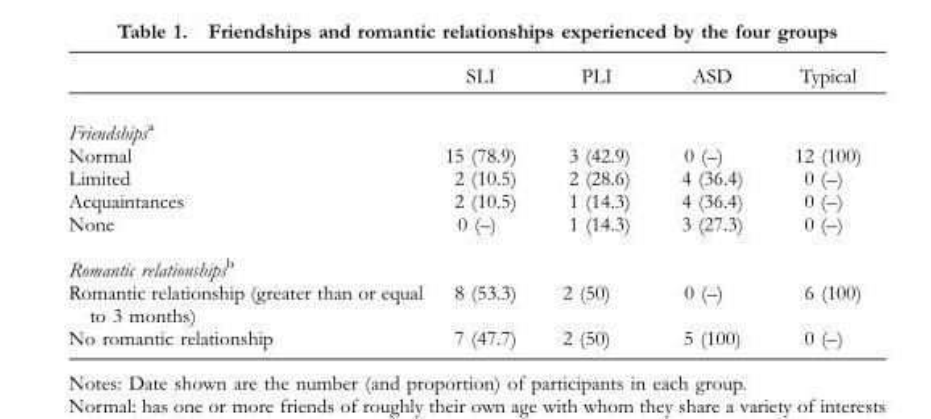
<table><thead><tr><td></td><td>SLI</td><td>PLI</td><td>ASD</td><td>Typical</td></tr></thead><tbody><tr><td colspan="5">Friendships<sup>a</sup></td></tr><tr><td>Normal</td><td>15 (78.9)</td><td>3 (42.9)</td><td>0 (–)</td><td>12 (100)</td></tr><tr><td>Limited</td><td>2 (10.5)</td><td>2 (28.6)</td><td>4 (36.4)</td><td>0 (–)</td></tr><tr><td>Acquaintances</td><td>2 (10.5)</td><td>1 (14.3)</td><td>4 (36.4)</td><td>0 (–)</td></tr><tr><td>None</td><td>0 (–)</td><td>1 (14.3)</td><td>3 (27.3)</td><td>0 (–)</td></tr><tr><td colspan="5">Romantic relationships<sup>b</sup></td></tr><tr><td>Romantic relationship (greater than or equal to 3 months)</td><td>8 (53.3)</td><td>2 (50)</td><td>0 (–)</td><td>6 (100)</td></tr><tr><td>No romantic relationship</td><td>7 (47.7)</td><td>2 (50)</td><td>5 (100)</td><td>0 (–)</td></tr></tbody></table>